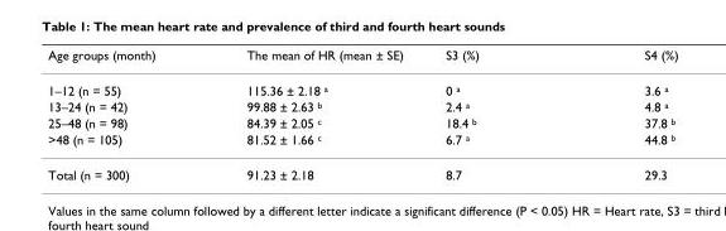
<table><thead><tr><td>Age groups (month)</td><td>The mean of HR (mean ± SE)</td><td>S3 (%)</td><td>S4 (%)</td></tr></thead><tbody><tr><td>1–12 (n = 55)</td><td>115.36 ± 2.18 <sup>a</sup></td><td>0 <sup>a</sup></td><td>3.6 <sup>a</sup></td></tr><tr><td>13–24 (n = 42)</td><td>99.88 ± 2.63 <sup>b</sup></td><td>2.4 <sup>a</sup></td><td>4.8 <sup>a</sup></td></tr><tr><td>25–48 (n = 98)</td><td>84.39 ± 2.05 <sup>c</sup></td><td>18.4 <sup>b</sup></td><td>37.8 <sup>b</sup></td></tr><tr><td>&gt;48 (n = 105)</td><td>81.52 ± 1.66 <sup>c</sup></td><td>6.7 <sup>a</sup></td><td>44.8 <sup>b</sup></td></tr><tr><td>Total (n = 300)</td><td>91.23 ± 2.18</td><td>8.7</td><td>29.3</td></tr></tbody></table>